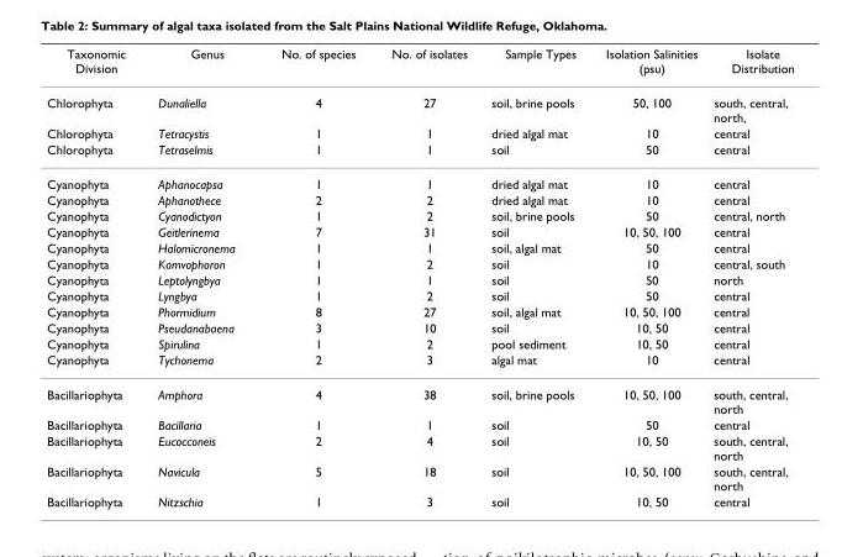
<table><thead><tr><td>Taxonomic Division</td><td>Genus</td><td>No. of species</td><td>No. of isolates</td><td>Sample Types</td><td>Isolation Salinities (psu)</td><td>Isolate Distribution</td></tr></thead><tbody><tr><td>Chlorophyta</td><td>Dunaliella</td><td>4</td><td>27</td><td>soil, brine pools</td><td>50, 100</td><td>south, central, north,</td></tr><tr><td>Chlorophyta</td><td>Tetracystis</td><td>1</td><td>1</td><td>dried algal mat</td><td>10</td><td>central</td></tr><tr><td>Chlorophyta</td><td>Tetraselmis</td><td>1</td><td>1</td><td>soil</td><td>50</td><td>central</td></tr><tr><td>Cyanophyta</td><td>Aphanocapsa</td><td>1</td><td>1</td><td>dried algal mat</td><td>10</td><td>central</td></tr><tr><td>Cyanophyta</td><td>Aphanothece</td><td>2</td><td>2</td><td>dried algal mat</td><td>10</td><td>central</td></tr><tr><td>Cyanophyta</td><td>Cyanodictyon</td><td>1</td><td>2</td><td>soil, brine pools</td><td>50</td><td>central, north</td></tr><tr><td>Cyanophyta</td><td>Geitlerinema</td><td>7</td><td>31</td><td>soil</td><td>10, 50, 100</td><td>central</td></tr><tr><td>Cyanophyta</td><td>Halomicronema</td><td>1</td><td>1</td><td>soil, algal mat</td><td>50</td><td>central</td></tr><tr><td>Cyanophyta</td><td>Komvophoron</td><td>1</td><td>2</td><td>soil</td><td>10</td><td>central, south</td></tr><tr><td>Cyanophyta</td><td>Leptolyngbya</td><td>1</td><td>1</td><td>soil</td><td>50</td><td>north</td></tr><tr><td>Cyanophyta</td><td>Lyngbya</td><td>1</td><td>2</td><td>soil</td><td>50</td><td>central</td></tr><tr><td>Cyanophyta</td><td>Phormidium</td><td>8</td><td>27</td><td>soil, algal mat</td><td>10, 50, 100</td><td>central</td></tr><tr><td>Cyanophyta</td><td>Pseudanabaena</td><td>3</td><td>10</td><td>soil</td><td>10, 50</td><td>central</td></tr><tr><td>Cyanophyta</td><td>Spirulina</td><td>1</td><td>2</td><td>pool sediment</td><td>10, 50</td><td>central</td></tr><tr><td>Cyanophyta</td><td>Tychonema</td><td>2</td><td>3</td><td>algal mat</td><td>10</td><td>central</td></tr><tr><td>Bacillariophyta</td><td>Amphora</td><td>4</td><td>38</td><td>soil, brine pools</td><td>10, 50, 100</td><td>south, central, north</td></tr><tr><td>Bacillariophyta</td><td>Bacillaria</td><td>1</td><td>1</td><td>soil</td><td>50</td><td>central</td></tr><tr><td>Bacillariophyta</td><td>Eucocconeis</td><td>2</td><td>4</td><td>soil</td><td>10, 50</td><td>south, central, north</td></tr><tr><td>Bacillariophyta</td><td>Navicula</td><td>5</td><td>18</td><td>soil</td><td>10, 50, 100</td><td>south, central, north</td></tr><tr><td>Bacillariophyta</td><td>Nitzschia</td><td>1</td><td>3</td><td>soil</td><td>10, 50</td><td>central</td></tr></tbody></table>